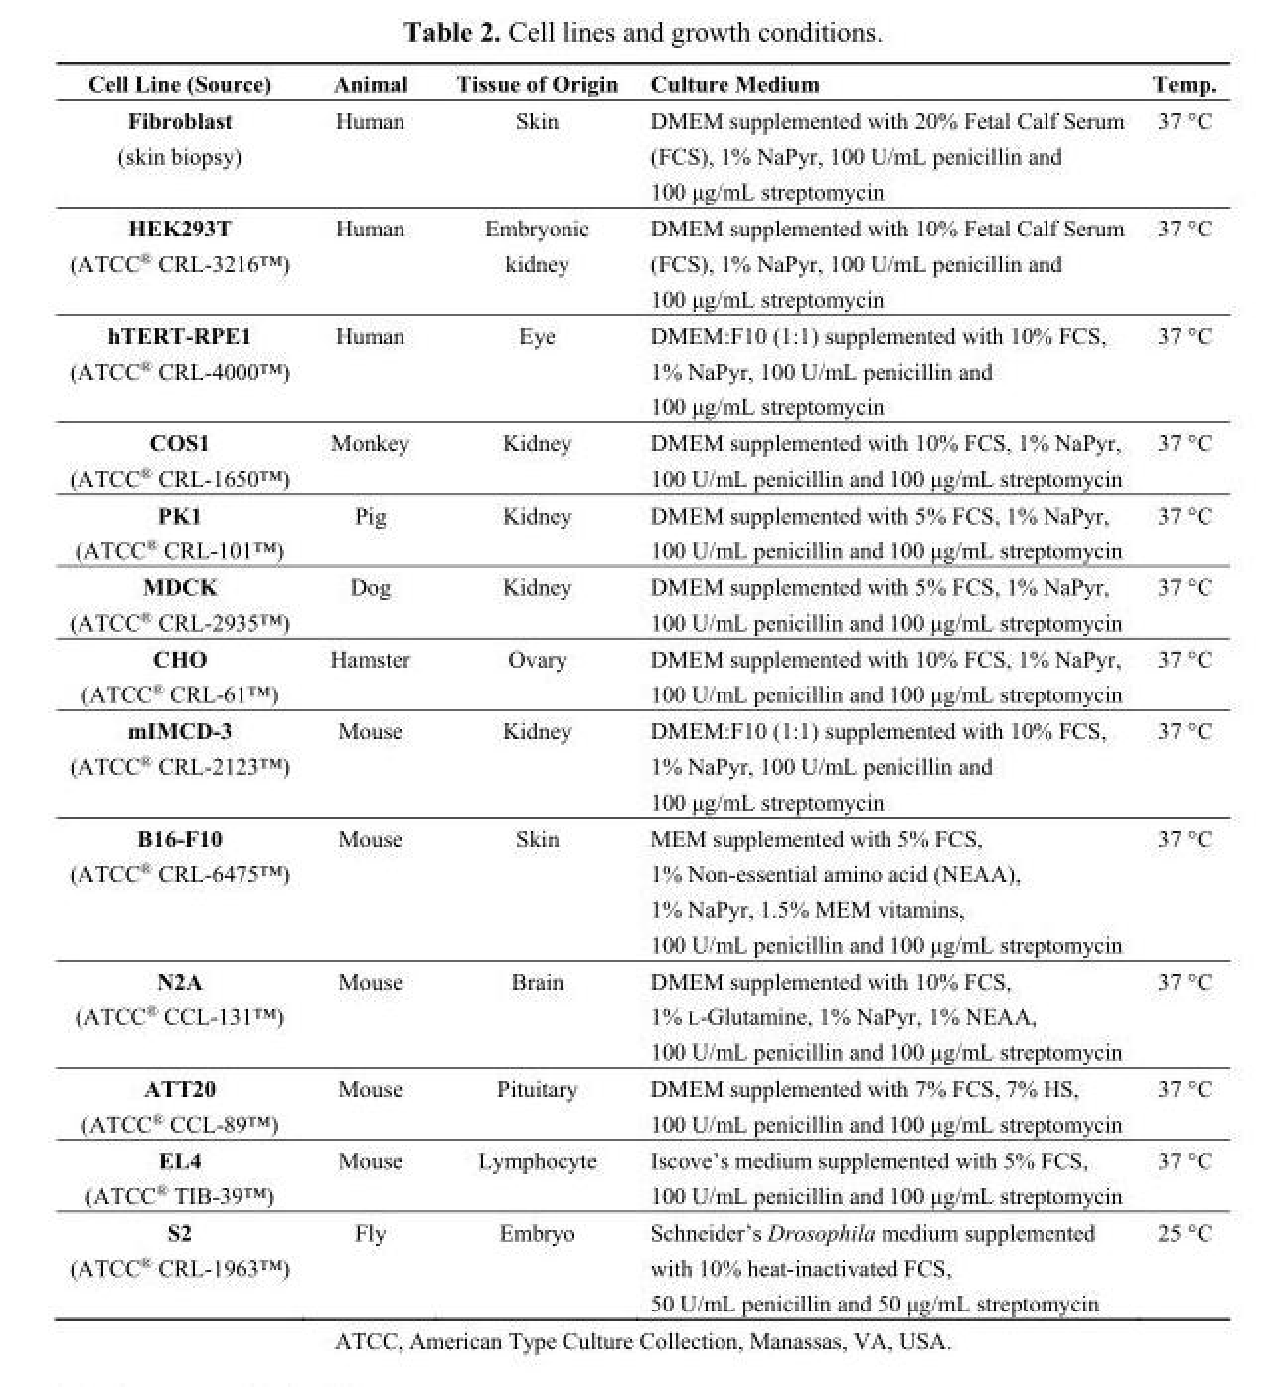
<table><thead><tr><td>Cell Line (Source)</td><td>Animal</td><td>Tissue of Origin</td><td>Culture Medium</td><td>Temp.</td></tr></thead><tbody><tr><td>Fibroblast (skin biopsy)</td><td>Human</td><td>Skin</td><td>DMEM supplemented with 20% Fetal Calf Serum (FCS), 1% NaPyr, 100 U/mL penicillin and 100 μg/mL streptomycin</td><td>37 °C</td></tr><tr><td>HEK293T (ATCC<sup>®</sup> CRL-3216™)</td><td>Human</td><td>Embryonic kidney</td><td>DMEM supplemented with 10% Fetal Calf Serum (FCS), 1% NaPyr, 100 U/mL penicillin and 100 μg/mL streptomycin</td><td>37 °C</td></tr><tr><td>hTERT-RPE1 (ATCC<sup>®</sup> CRL-4000™)</td><td>Human</td><td>Eye</td><td>DMEM:F10 (1:1) supplemented with 10% FCS, 1% NaPyr, 100 U/mL penicillin and 100 μg/mL streptomycin</td><td>37 °C</td></tr><tr><td>COS1 (ATCC<sup>®</sup> CRL-1650™)</td><td>Monkey</td><td>Kidney</td><td>DMEM supplemented with 10% FCS, 1% NaPyr, 100 U/mL penicillin and 100 μg/mL streptomycin</td><td>37 °C</td></tr><tr><td>PK1 (ATCC<sup>®</sup> CRL-101™)</td><td>Pig</td><td>Kidney</td><td>DMEM supplemented with 5% FCS, 1% NaPyr, 100 U/mL penicillin and 100 μg/mL streptomycin</td><td>37 °C</td></tr><tr><td>MDCK (ATCC<sup>®</sup> CRL-2935™)</td><td>Dog</td><td>Kidney</td><td>DMEM supplemented with 5% FCS, 1% NaPyr, 100 U/mL penicillin and 100 μg/mL streptomycin</td><td>37 °C</td></tr><tr><td>CHO (ATCC<sup>®</sup> CRL-61™)</td><td>Hamster</td><td>Ovary</td><td>DMEM supplemented with 10% FCS, 1% NaPyr, 100 U/mL penicillin and 100 μg/mL streptomycin</td><td>37 °C</td></tr><tr><td>mIMCD-3 (ATCC<sup>®</sup> CRL-2123™)</td><td>Mouse</td><td>Kidney</td><td>DMEM:F10 (1:1) supplemented with 10% FCS, 1% NaPyr, 100 U/mL penicillin and 100 μg/mL streptomycin</td><td>37 °C</td></tr><tr><td>B16-F10 (ATCC<sup>®</sup> CRL-6475™)</td><td>Mouse</td><td>Skin</td><td>MEM supplemented with 5% FCS, 1% Non-essential amino acid (NEAA), 1% NaPyr, 1.5% MEM vitamins, 100 U/mL penicillin and 100 μg/mL streptomycin</td><td>37 °C</td></tr><tr><td>N2A (ATCC<sup>®</sup> CCL-131™)</td><td>Mouse</td><td>Brain</td><td>DMEM supplemented with 10% FCS, 1% L-Glutamine, 1% NaPyr, 1% NEAA, 100 U/mL penicillin and 100 μg/mL streptomycin</td><td>37 °C</td></tr><tr><td>ATT20 (ATCC<sup>®</sup> CCL-89™)</td><td>Mouse</td><td>Pituitary</td><td>DMEM supplemented with 7% FCS, 7% HS, 100 U/mL penicillin and 100 μg/mL streptomycin</td><td>37 °C</td></tr><tr><td>EL4 (ATCC<sup>®</sup> TIB-39™)</td><td>Mouse</td><td>Lymphocyte</td><td>Iscove’s medium supplemented with 5% FCS, 100 U/mL penicillin and 100 μg/mL streptomycin</td><td>37 °C</td></tr><tr><td>S2 (ATCC<sup>®</sup> CRL-1963™)</td><td>Fly</td><td>Embryo</td><td>Schneider’s Drosophila medium supplemented with 10% heat-inactivated FCS, 50 U/mL penicillin and 50 μg/mL streptomycin</td><td>25 °C</td></tr></tbody></table>